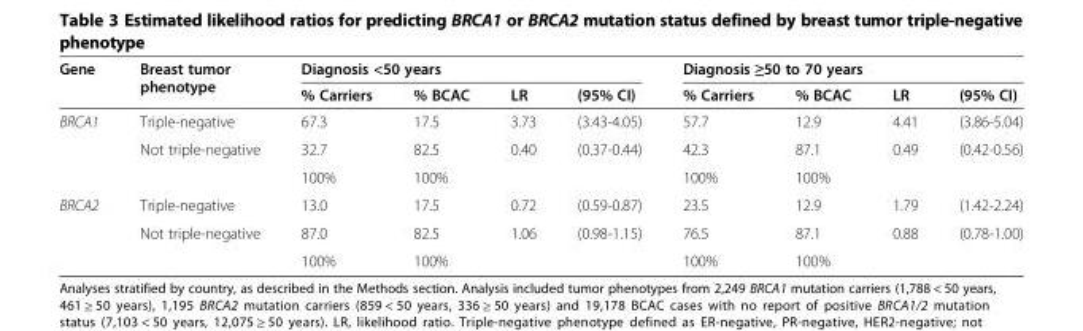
<table><thead><tr><td rowspan="2">Gene</td><td rowspan="2">Breast tumor phenotype</td><td colspan="4">Diagnosis &lt;50 years</td><td colspan="4">Diagnosis ≥50 to 70 years</td></tr><tr><td>% Carriers</td><td>% BCAC</td><td>LR</td><td>(95% CI)</td><td>% Carriers</td><td>% BCAC</td><td>LR</td><td>(95% CI)</td></tr></thead><tbody><tr><td rowspan="3">BRCA1</td><td>Triple-negative</td><td>67.3</td><td>17.5</td><td>3.73</td><td>(3.43-4.05)</td><td>57.7</td><td>12.9</td><td>4.41</td><td>(3.86-5.04)</td></tr><tr><td>Not triple-negative</td><td>32.7</td><td>82.5</td><td>0.40</td><td>(0.37-0.44)</td><td>42.3</td><td>87.1</td><td>0.49</td><td>(0.42-0.56)</td></tr><tr><td></td><td>100%</td><td>100%</td><td></td><td></td><td>100%</td><td>100%</td><td></td><td></td></tr><tr><td rowspan="3">BRCA2</td><td>Triple-negative</td><td>13.0</td><td>17.5</td><td>0.72</td><td>(0.59-0.87)</td><td>23.5</td><td>12.9</td><td>1.79</td><td>(1.42-2.24)</td></tr><tr><td>Not triple-negative</td><td>87.0</td><td>82.5</td><td>1.06</td><td>(0.98-1.15)</td><td>76.5</td><td>87.1</td><td>0.88</td><td>(0.78-1.00)</td></tr><tr><td></td><td>100%</td><td>100%</td><td></td><td></td><td>100%</td><td>100%</td><td></td><td></td></tr></tbody></table>